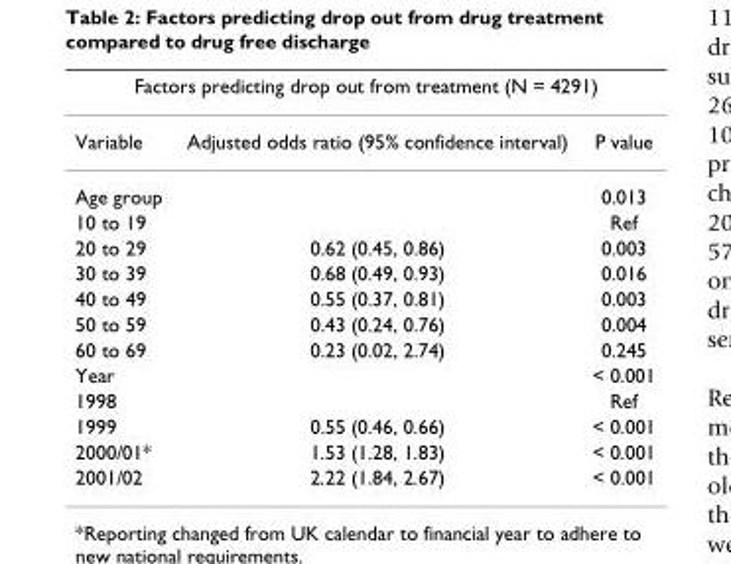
<table><thead><tr><td colspan="3">Factors predicting drop out from treatment (N = 4291)</td></tr><tr><td>Variable</td><td>Adjusted odds ratio (95% confidence interval)</td><td>P value</td></tr></thead><tbody><tr><td>Age group</td><td></td><td>0.013</td></tr><tr><td>10 to 19</td><td></td><td>Ref</td></tr><tr><td>20 to 29</td><td>0.62 (0.45, 0.86)</td><td>0.003</td></tr><tr><td>30 to 39</td><td>0.68 (0.49, 0.93)</td><td>0.016</td></tr><tr><td>40 to 49</td><td>0.55 (0.37, 0.81)</td><td>0.003</td></tr><tr><td>50 to 59</td><td>0.43 (0.24, 0.76)</td><td>0.004</td></tr><tr><td>60 to 69</td><td>0.23 (0.02, 2.74)</td><td>0.245</td></tr><tr><td>Year</td><td></td><td>&lt; 0.001</td></tr><tr><td>1998</td><td></td><td>Ref</td></tr><tr><td>1999</td><td>0.55 (0.46, 0.66)</td><td>&lt; 0.001</td></tr><tr><td>2000/01*</td><td>1.53 (1.28, 1.83)</td><td>&lt; 0.001</td></tr><tr><td>2001/02</td><td>2.22 (1.84, 2.67)</td><td>&lt; 0.001</td></tr></tbody></table>